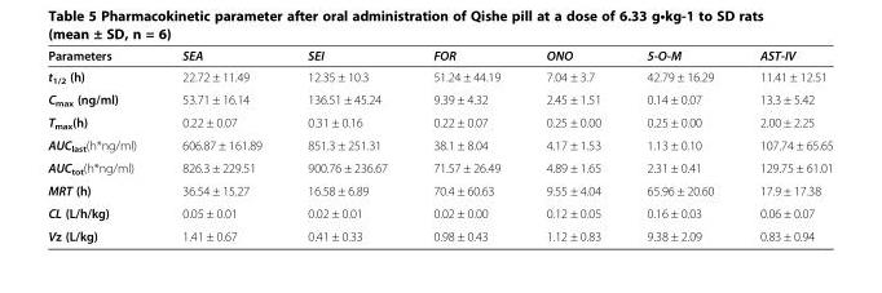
<table><thead><tr><td>Parameters</td><td>SEA</td><td>SEI</td><td>FOR</td><td>ONO</td><td>5-O-M</td><td>AST-IV</td></tr></thead><tbody><tr><td>t<sub>1/2</sub> (h)</td><td>22.72 ± 11.49</td><td>12.35 ± 10.3</td><td>51.24 ± 44.19</td><td>7.04 ± 3.7</td><td>42.79 ± 16.29</td><td>11.41 ± 12.51</td></tr><tr><td>C<sub>max</sub> (ng/ml)</td><td>53.71 ± 16.14</td><td>136.51 ± 45.24</td><td>9.39 ± 4.32</td><td>2.45 ± 1.51</td><td>0.14 ± 0.07</td><td>13.3 ± 5.42</td></tr><tr><td>T<sub>max</sub>(h)</td><td>0.22 ± 0.07</td><td>0.31 ± 0.16</td><td>0.22 ± 0.07</td><td>0.25 ± 0.00</td><td>0.25 ± 0.00</td><td>2.00 ± 2.25</td></tr><tr><td>AUC<sub>last</sub>(h*ng/ml)</td><td>606.87 ± 161.89</td><td>851.3 ± 251.31</td><td>38.1 ± 8.04</td><td>4.17 ± 1.53</td><td>1.13 ± 0.10</td><td>107.74 ± 65.65</td></tr><tr><td>AUC<sub>tot</sub>(h*ng/ml)</td><td>826.3 ± 229.51</td><td>900.76 ± 236.67</td><td>71.57 ± 26.49</td><td>4.89 ± 1.65</td><td>2.31 ± 0.41</td><td>129.75 ± 61.01</td></tr><tr><td>MRT (h)</td><td>36.54 ± 15.27</td><td>16.58 ± 6.89</td><td>70.4 ± 60.63</td><td>9.55 ± 4.04</td><td>65.96 ± 20.60</td><td>17.9 ± 17.38</td></tr><tr><td>CL (L/h/kg)</td><td>0.05 ± 0.01</td><td>0.02 ± 0.01</td><td>0.02 ± 0.00</td><td>0.12 ± 0.05</td><td>0.16 ± 0.03</td><td>0.06 ± 0.07</td></tr><tr><td>Vz (L/kg)</td><td>1.41 ± 0.67</td><td>0.41 ± 0.33</td><td>0.98 ± 0.43</td><td>1.12 ± 0.83</td><td>9.38 ± 2.09</td><td>0.83 ± 0.94</td></tr></tbody></table>